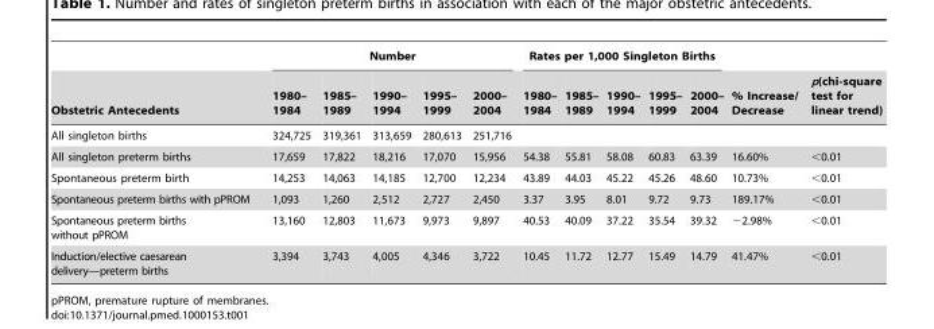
<table><thead><tr><td rowspan="2">Obstetric Antecedents</td><td colspan="5">Number</td><td colspan="5">Rates per 1,000 Singleton Births</td><td rowspan="2">% Increase/ Decrease</td><td rowspan="2">p(chi-square test for linear trend)</td></tr><tr><td>1980– 1984</td><td>1985– 1989</td><td>1990– 1994</td><td>1995– 1999</td><td>2000– 2004</td><td>1980– 1984</td><td>1985– 1989</td><td>1990– 1994</td><td>1995– 1999</td><td>2000– 2004</td></tr></thead><tbody><tr><td>All singleton births</td><td>324,725</td><td>319,361</td><td>313,659</td><td>280,613</td><td>251,716</td><td></td><td></td><td></td><td></td><td></td><td></td><td></td></tr><tr><td>All singleton preterm births</td><td>17,659</td><td>17,822</td><td>18,216</td><td>17,070</td><td>15,956</td><td>54.38</td><td>55.81</td><td>58.08</td><td>60.83</td><td>63.39</td><td>16.60%</td><td>&lt;0.01</td></tr><tr><td>Spontaneous preterm birth</td><td>14,253</td><td>14,063</td><td>14,185</td><td>12,700</td><td>12,234</td><td>43.89</td><td>44.03</td><td>45.22</td><td>45.26</td><td>48.60</td><td>10.73%</td><td>&lt;0.01</td></tr><tr><td>Spontaneous preterm births with pPROM</td><td>1,093</td><td>1,260</td><td>2,512</td><td>2,727</td><td>2,450</td><td>3.37</td><td>3.95</td><td>8.01</td><td>9.72</td><td>9.73</td><td>189.17%</td><td>&lt;0.01</td></tr><tr><td>Spontaneous preterm births without pPROM</td><td>13,160</td><td>12,803</td><td>11,673</td><td>9,973</td><td>9,897</td><td>40.53</td><td>40.09</td><td>37.22</td><td>35.54</td><td>39.32</td><td>−2.98%</td><td>&lt;0.01</td></tr><tr><td>Induction/elective caesarean delivery—preterm births</td><td>3,394</td><td>3,743</td><td>4,005</td><td>4,346</td><td>3,722</td><td>10.45</td><td>11.72</td><td>12.77</td><td>15.49</td><td>14.79</td><td>41.47%</td><td>&lt;0.01</td></tr></tbody></table>